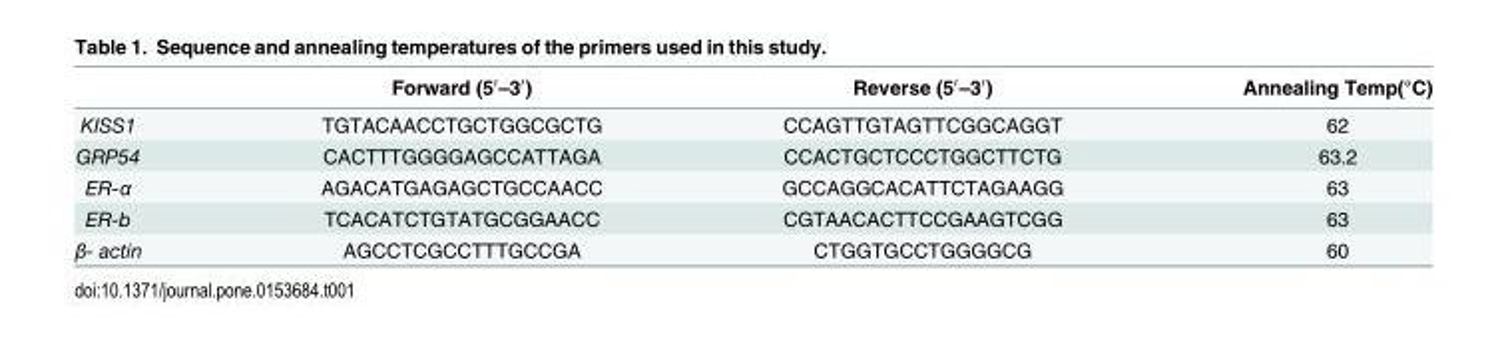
<table><thead><tr><td></td><td>Forward (5′–3′)</td><td>Reverse (5′–3′)</td><td>Annealing Temp(°C)</td></tr></thead><tbody><tr><td>KISS1</td><td>TGTACAACCTGCTGGCGCTG</td><td>CCAGTTGTAGTTCGGCAGGT</td><td>62</td></tr><tr><td>GRP54</td><td>CACTTTGGGGAGCCATTAGA</td><td>CCACTGCTCCCTGGCTTCTG</td><td>63.2</td></tr><tr><td>ER-α</td><td>AGACATGAGAGCTGCCAACC</td><td>GCCAGGCACATTCTAGAAGG</td><td>63</td></tr><tr><td>ER-b</td><td>TCACATCTGTATGCGGAACC</td><td>CGTAACACTTCCGAAGTCGG</td><td>63</td></tr><tr><td>β- actin</td><td>AGCCTCGCCTTTGCCGA</td><td>CTGGTGCCTGGGGCG</td><td>60</td></tr></tbody></table>